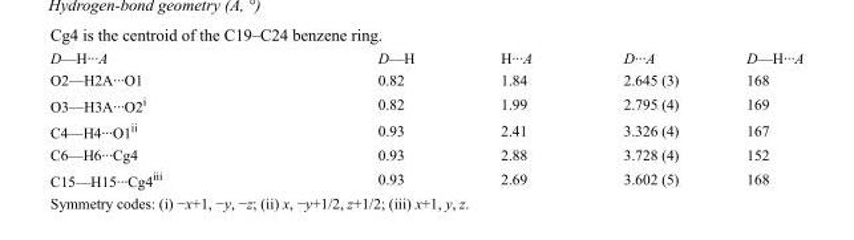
<table><tbody><tr><td>D—H···A</td><td>D—H</td><td>H···A</td><td>D···A</td><td>D—H···A</td></tr><tr><td>O2—H2A···O1</td><td>0.82</td><td>1.84</td><td>2.645 (3)</td><td>168</td></tr><tr><td>O3—H3A···O2<sup>i</sup></td><td>0.82</td><td>1.99</td><td>2.795 (4)</td><td>169</td></tr><tr><td>C4—H4···O1<sup>ii</sup></td><td>0.93</td><td>2.41</td><td>3.326 (4)</td><td>167</td></tr><tr><td>C6—H6···Cg4</td><td>0.93</td><td>2.88</td><td>3.728 (4)</td><td>152</td></tr><tr><td>C15—H15···Cg4<sup>iii</sup></td><td>0.93</td><td>2.69</td><td>3.602 (5)</td><td>168</td></tr></tbody></table>